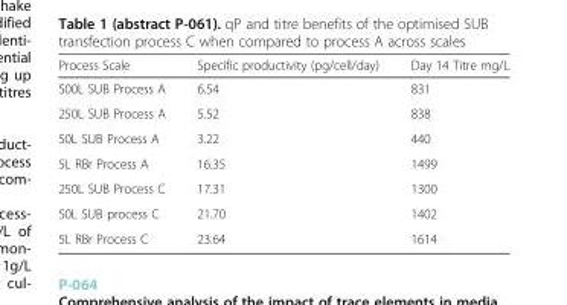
<table><thead><tr><td>Process Scale</td><td>Specific productivity (pg/cell/day)</td><td>Day 14 Titre mg/L</td></tr></thead><tbody><tr><td>500L SUB Process A</td><td>6.54</td><td>831</td></tr><tr><td>250L SUB Process A</td><td>5.52</td><td>838</td></tr><tr><td>50L SUB Process A</td><td>3.22</td><td>440</td></tr><tr><td>5L RBr Process A</td><td>16.35</td><td>1499</td></tr><tr><td>250L SUB Process C</td><td>17.31</td><td>1300</td></tr><tr><td>50L SUB process C</td><td>21.70</td><td>1402</td></tr><tr><td>5L RBr Process C</td><td>23.64</td><td>1614</td></tr></tbody></table>